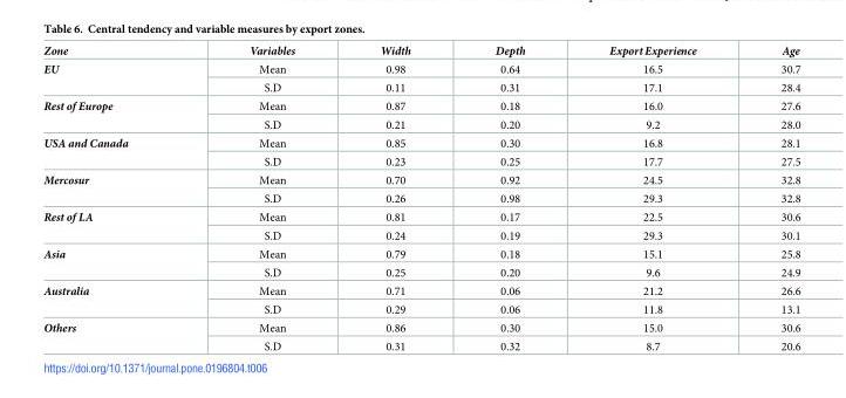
<table><thead><tr><td>Zone</td><td>Variables</td><td>Width</td><td>Depth</td><td>Export Experience</td><td>Age</td></tr></thead><tbody><tr><td rowspan="2">EU</td><td>Mean</td><td>0.98</td><td>0.64</td><td>16.5</td><td>30.7</td></tr><tr><td>S.D</td><td>0.11</td><td>0.31</td><td>17.1</td><td>28.4</td></tr><tr><td rowspan="2">Rest of Europe</td><td>Mean</td><td>0.87</td><td>0.18</td><td>16.0</td><td>27.6</td></tr><tr><td>S.D</td><td>0.21</td><td>0.20</td><td>9.2</td><td>28.0</td></tr><tr><td rowspan="2">USA and Canada</td><td>Mean</td><td>0.85</td><td>0.30</td><td>16.8</td><td>28.1</td></tr><tr><td>S.D</td><td>0.23</td><td>0.25</td><td>17.7</td><td>27.5</td></tr><tr><td rowspan="2">Mercosur</td><td>Mean</td><td>0.70</td><td>0.92</td><td>24.5</td><td>32.8</td></tr><tr><td>S.D</td><td>0.26</td><td>0.98</td><td>29.3</td><td>32.8</td></tr><tr><td rowspan="2">Rest of LA</td><td>Mean</td><td>0.81</td><td>0.17</td><td>22.5</td><td>30.6</td></tr><tr><td>S.D</td><td>0.24</td><td>0.19</td><td>29.3</td><td>30.1</td></tr><tr><td rowspan="2">Asia</td><td>Mean</td><td>0.79</td><td>0.18</td><td>15.1</td><td>25.8</td></tr><tr><td>S.D</td><td>0.25</td><td>0.20</td><td>9.6</td><td>24.9</td></tr><tr><td rowspan="2">Australia</td><td>Mean</td><td>0.71</td><td>0.06</td><td>21.2</td><td>26.6</td></tr><tr><td>S.D</td><td>0.29</td><td>0.06</td><td>11.8</td><td>13.1</td></tr><tr><td rowspan="2">Others</td><td>Mean</td><td>0.86</td><td>0.30</td><td>15.0</td><td>30.6</td></tr><tr><td>S.D</td><td>0.31</td><td>0.32</td><td>8.7</td><td>20.6</td></tr></tbody></table>